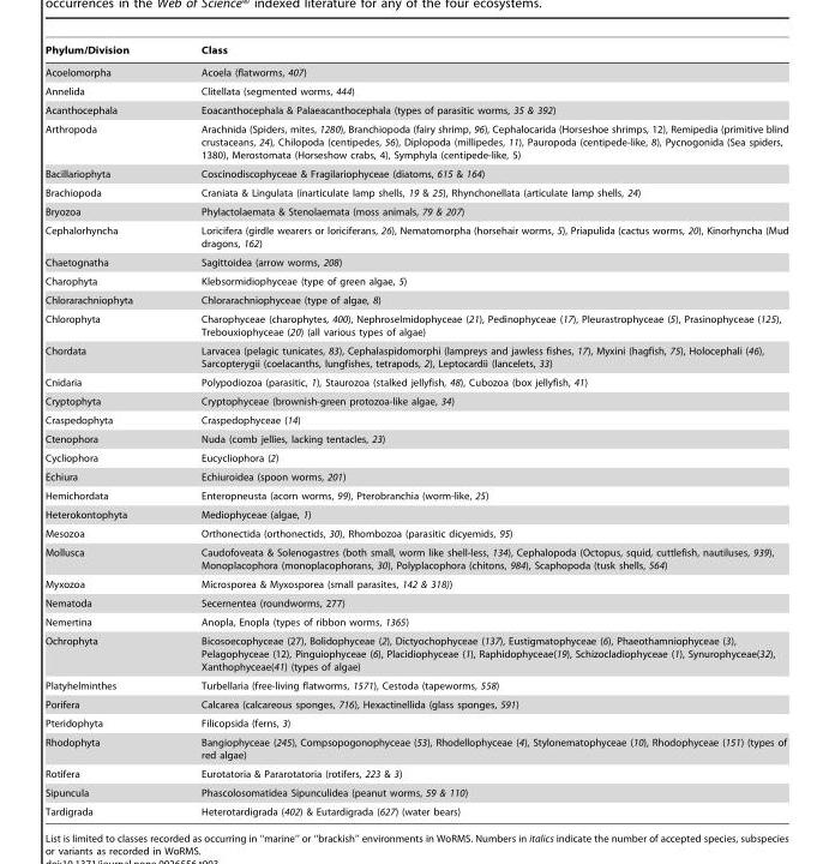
<table><thead><tr><td>Phylum/Division</td><td>Class</td></tr></thead><tbody><tr><td>Acoelomorpha</td><td>Acoela (flatworms, 407)</td></tr><tr><td>Annelida</td><td>Clitellata (segmented worms, 444)</td></tr><tr><td>Acanthocephala</td><td>Eoacanthocephala &amp; Palaeacanthocephala (types of parasitic worms, 35 &amp; 392)</td></tr><tr><td>Arthropoda</td><td>Arachnida (Spiders, mites, 1280), Branchiopoda (fairy shrimp, 96), Cephalocarida (Horseshoe shrimps, 12), Remipedia (primitive blind crustaceans, 24), Chilopoda (centipedes, 56), Diplopoda (millipedes, 11), Pauropoda (centipede-like, 8), Pycnogonida (Sea spiders, 1380), Merostomata (Horseshow crabs, 4), Symphyla (centipede-like, 5)</td></tr><tr><td>Bacillariophyta</td><td>Coscinodiscophyceae &amp; Fragilariophyceae (diatoms, 615 &amp; 164)</td></tr><tr><td>Brachiopoda</td><td>Craniata &amp; Lingulata (inarticulate lamp shells, 19 &amp; 25), Rhynchonellata (articulate lamp shells, 24)</td></tr><tr><td>Bryozoa</td><td>Phylactolaemata &amp; Stenolaemata (moss animals, 79 &amp; 207)</td></tr><tr><td>Cephalorhyncha</td><td>Loricifera (girdle wearers or loriciferans, 26), Nematomorpha (horsehair worms, 5), Priapulida (cactus worms, 20), Kinorhyncha (Mud dragons, 162)</td></tr><tr><td>Chaetognatha</td><td>Sagittoidea (arrow worms, 208)</td></tr><tr><td>Charophyta</td><td>Klebsormidiophyceae (type of green algae, 5)</td></tr><tr><td>Chlorarachniophyta</td><td>Chlorarachniophyceae (type of algae, 8)</td></tr><tr><td>Chlorophyta</td><td>Charophyceae (charophytes, 400), Nephroselmidophyceae (21), Pedinophyceae (17), Pleurastrophyceae (5), Prasinophyceae (125), Trebouxiophyceae (20) (all various types of algae)</td></tr><tr><td>Chordata</td><td>Larvacea (pelagic tunicates, 83), Cephalaspidomorphi (lampreys and jawless fishes, 17), Myxini (hagfish, 75), Holocephali (46), Sarcopterygii (coelacanths, lungfishes, tetrapods, 2), Leptocardii (lancelets, 33)</td></tr><tr><td>Cnidaria</td><td>Polypodiozoa (parasitic, 1), Staurozoa (stalked jellyfish, 48), Cubozoa (box jellyfish, 41)</td></tr><tr><td>Cryptophyta</td><td>Cryptophyceae (brownish-green protozoa-like algae, 34)</td></tr><tr><td>Craspedophyta</td><td>Craspedophyceae (14)</td></tr><tr><td>Ctenophora</td><td>Nuda (comb jellies, lacking tentacles, 23)</td></tr><tr><td>Cycliophora</td><td>Eucycliophora (2)</td></tr><tr><td>Echiura</td><td>Echiuroidea (spoon worms, 201)</td></tr><tr><td>Hemichordata</td><td>Enteropneusta (acorn worms, 99), Pterobranchia (worm-like, 25)</td></tr><tr><td>Heterokontophyta</td><td>Mediophyceae (algae, 1)</td></tr><tr><td>Mesozoa</td><td>Orthonectida (orthonectids, 30), Rhombozoa (parasitic dicyemids, 95)</td></tr><tr><td>Mollusca</td><td>Caudofoveata &amp; Solenogastres (both small, worm like shell-less, 134), Cephalopoda (Octopus, squid, cuttlefish, nautiluses, 939), Monoplacophora (monoplacophorans, 30), Polyplacophora (chitons, 984), Scaphopoda (tusk shells, 564)</td></tr><tr><td>Myxozoa</td><td>Microsporea &amp; Myxosporea (small parasites, 142 &amp; 318))</td></tr><tr><td>Nematoda</td><td>Secernentea (roundworms, 277)</td></tr><tr><td>Nemertina</td><td>Anopla, Enopla (types of ribbon worms, 1365)</td></tr><tr><td>Ochrophyta</td><td>Bicosoecophyceae (27), Bolidophyceae (2), Dictyochophyceae (137), Eustigmatophyceae (6), Phaeothamniophyceae (3), Pelagophyceae (12), Pinguiophyceae (6), Placidiophyceae (1), Raphidophyceae(19), Schizocladiophyceae (1), Synurophyceae(32), Xanthophyceae(41) (types of algae)</td></tr><tr><td>Platyhelminthes</td><td>Turbellaria (free-living flatworms, 1571), Cestoda (tapeworms, 558)</td></tr><tr><td>Porifera</td><td>Calcarea (calcareous sponges, 716), Hexactinellida (glass sponges, 591)</td></tr><tr><td>Pteridophyta</td><td>Filicopsida (ferns, 3)</td></tr><tr><td>Rhodophyta</td><td>Bangiophyceae (245), Compsopogonophyceae (53), Rhodellophyceae (4), Stylonematophyceae (10), Rhodophyceae (151) (types of red algae)</td></tr><tr><td>Rotifera</td><td>Eurotatoria &amp; Pararotatoria (rotifers, 223 &amp; 3)</td></tr><tr><td>Sipuncula</td><td>Phascolosomatidea Sipunculidea (peanut worms, 59 &amp; 110)</td></tr><tr><td>Tardigrada</td><td>Heterotardigrada (402) &amp; Eutardigrada (627) (water bears)</td></tr></tbody></table>